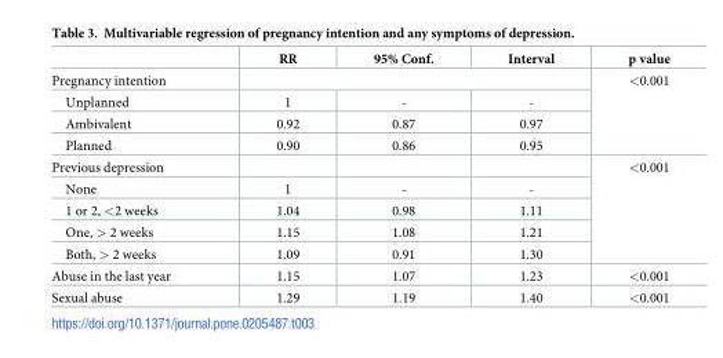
<table><thead><tr><td></td><td>RR</td><td>95% Conf.</td><td>Interval</td><td>p value</td></tr></thead><tbody><tr><td colspan="4">Pregnancy intention</td><td rowspan="4">&lt;0.001</td></tr><tr><td>Unplanned</td><td>1</td><td>-</td><td>-</td></tr><tr><td>Ambivalent</td><td>0.92</td><td>0.87</td><td>0.97</td></tr><tr><td>Planned</td><td>0.90</td><td>0.86</td><td>0.95</td></tr><tr><td colspan="4">Previous depression</td><td rowspan="5">&lt;0.001</td></tr><tr><td>None</td><td>1</td><td>-</td><td>-</td></tr><tr><td>1 or 2, &lt;2 weeks</td><td>1.04</td><td>0.98</td><td>1.11</td></tr><tr><td>One, &gt; 2 weeks</td><td>1.15</td><td>1.08</td><td>1.21</td></tr><tr><td>Both, &gt; 2 weeks</td><td>1.09</td><td>0.91</td><td>1.30</td></tr><tr><td>Abuse in the last year</td><td>1.15</td><td>1.07</td><td>1.23</td><td>&lt;0.001</td></tr><tr><td>Sexual abuse</td><td>1.29</td><td>1.19</td><td>1.40</td><td>&lt;0.001</td></tr></tbody></table>